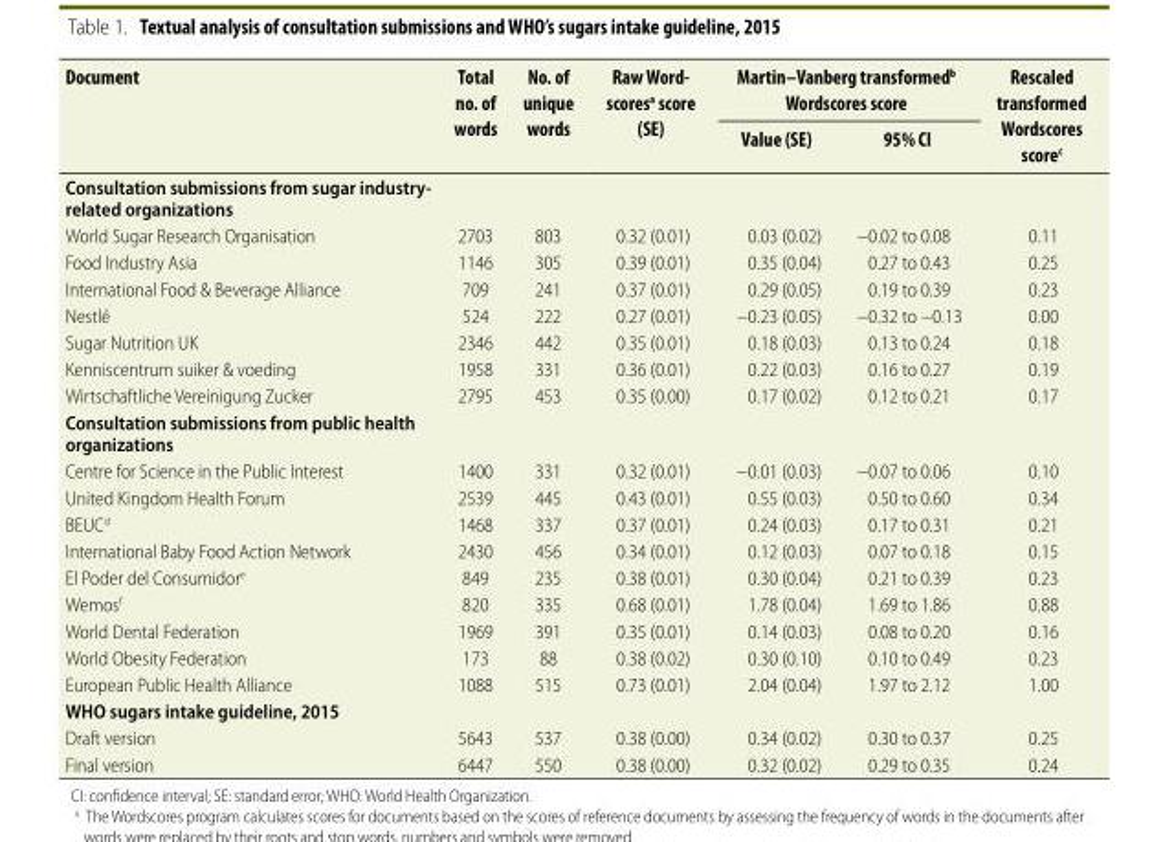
<table><thead><tr><td rowspan="2">Document</td><td rowspan="2">Total no. of words</td><td rowspan="2">No. of unique words</td><td rowspan="2">Raw Word- scoresa score (SE)</td><td colspan="2">Martin–Vanberg transformed<sup>b</sup> Wordscores score</td><td rowspan="2">Rescaled transformed Wordscores score<sup>c</sup></td></tr><tr><td>Value (SE)</td><td>95% CI</td></tr></thead><tbody><tr><td colspan="7">Consultation submissions from sugar industry- related organizations</td></tr><tr><td>World Sugar Research Organisation</td><td>2703</td><td>803</td><td>0.32 (0.01)</td><td>0.03 (0.02)</td><td>−0.02 to 0.08</td><td>0.11</td></tr><tr><td>Food Industry Asia</td><td>1146</td><td>305</td><td>0.39 (0.01)</td><td>0.35 (0.04)</td><td>0.27 to 0.43</td><td>0.25</td></tr><tr><td>International Food &amp; Beverage Alliance</td><td>709</td><td>241</td><td>0.37 (0.01)</td><td>0.29 (0.05)</td><td>0.19 to 0.39</td><td>0.23</td></tr><tr><td>Nestlé</td><td>524</td><td>222</td><td>0.27 (0.01)</td><td>−0.23 (0.05)</td><td>−0.32 to −0.13</td><td>0.00</td></tr><tr><td>Sugar Nutrition UK</td><td>2346</td><td>442</td><td>0.35 (0.01)</td><td>0.18 (0.03)</td><td>0.13 to 0.24</td><td>0.18</td></tr><tr><td>Kenniscentrum suiker &amp; voeding</td><td>1958</td><td>331</td><td>0.36 (0.01)</td><td>0.22 (0.03)</td><td>0.16 to 0.27</td><td>0.19</td></tr><tr><td>Wirtschaftliche Vereinigung Zucker</td><td>2795</td><td>453</td><td>0.35 (0.00)</td><td>0.17 (0.02)</td><td>0.12 to 0.21</td><td>0.17</td></tr><tr><td colspan="7">Consultation submissions from public health organizations</td></tr><tr><td>Centre for Science in the Public Interest</td><td>1400</td><td>331</td><td>0.32 (0.01)</td><td>−0.01 (0.03)</td><td>−0.07 to 0.06</td><td>0.10</td></tr><tr><td>United Kingdom Health Forum</td><td>2539</td><td>445</td><td>0.43 (0.01)</td><td>0.55 (0.03)</td><td>0.50 to 0.60</td><td>0.34</td></tr><tr><td>BEUC<sup>d</sup></td><td>1468</td><td>337</td><td>0.37 (0.01)</td><td>0.24 (0.03)</td><td>0.17 to 0.31</td><td>0.21</td></tr><tr><td>International Baby Food Action Network</td><td>2430</td><td>456</td><td>0.34 (0.01)</td><td>0.12 (0.03)</td><td>0.07 to 0.18</td><td>0.15</td></tr><tr><td>El Poder del Consumidor<sup>e</sup></td><td>849</td><td>235</td><td>0.38 (0.01)</td><td>0.30 (0.04)</td><td>0.21 to 0.39</td><td>0.23</td></tr><tr><td>Wemos<sup>f</sup></td><td>820</td><td>335</td><td>0.68 (0.01)</td><td>1.78 (0.04)</td><td>1.69 to 1.86</td><td>0.88</td></tr><tr><td>World Dental Federation</td><td>1969</td><td>391</td><td>0.35 (0.01)</td><td>0.14 (0.03)</td><td>0.08 to 0.20</td><td>0.16</td></tr><tr><td>World Obesity Federation</td><td>173</td><td>88</td><td>0.38 (0.02)</td><td>0.30 (0.10)</td><td>0.10 to 0.49</td><td>0.23</td></tr><tr><td>European Public Health Alliance</td><td>1088</td><td>515</td><td>0.73 (0.01)</td><td>2.04 (0.04)</td><td>1.97 to 2.12</td><td>1.00</td></tr><tr><td colspan="7">WHO sugars intake guideline, 2015</td></tr><tr><td>Draft version</td><td>5643</td><td>537</td><td>0.38 (0.00)</td><td>0.34 (0.02)</td><td>0.30 to 0.37</td><td>0.25</td></tr><tr><td>Final version</td><td>6447</td><td>550</td><td>0.38 (0.00)</td><td>0.32 (0.02)</td><td>0.29 to 0.35</td><td>0.24</td></tr></tbody></table>